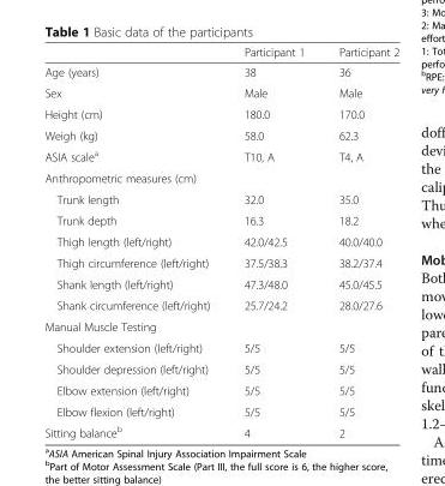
<table><thead><tr><td></td><td>Participant 1</td><td>Participant 2</td></tr></thead><tbody><tr><td>Age (years)</td><td>38</td><td>36</td></tr><tr><td>Sex</td><td>Male</td><td>Male</td></tr><tr><td>Height (cm)</td><td>180.0</td><td>170.0</td></tr><tr><td>Weigh (kg)</td><td>58.0</td><td>62.3</td></tr><tr><td>ASIA scale<sup>a</sup></td><td>T10, A</td><td>T4, A</td></tr><tr><td colspan="3">Anthropometric measures (cm)</td></tr><tr><td>Trunk length</td><td>32.0</td><td>35.0</td></tr><tr><td>Trunk depth</td><td>16.3</td><td>18.2</td></tr><tr><td>Thigh length (left/right)</td><td>42.0/42.5</td><td>40.0/40.0</td></tr><tr><td>Thigh circumference (left/right)</td><td>37.5/38.3</td><td>38.2/37.4</td></tr><tr><td>Shank length (left/right)</td><td>47.3/48.0</td><td>45.0/45.5</td></tr><tr><td>Shank circumference (left/right)</td><td>25.7/24.2</td><td>28.0/27.6</td></tr><tr><td colspan="3">Manual Muscle Testing</td></tr><tr><td>Shoulder extension (left/right)</td><td>5/5</td><td>5/5</td></tr><tr><td>Shoulder depression (left/right)</td><td>5/5</td><td>5/5</td></tr><tr><td>Elbow extension (left/right)</td><td>5/5</td><td>5/5</td></tr><tr><td>Elbow flexion (left/right)</td><td>5/5</td><td>5/5</td></tr><tr><td>Sitting balance<sup>b</sup></td><td>4</td><td>2</td></tr></tbody></table>